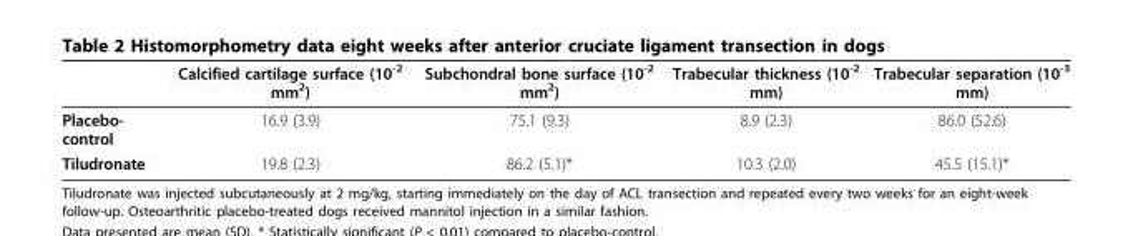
<table><thead><tr><td></td><td>Calcified cartilage surface (10<sup>-2</sup> mm<sup>2</sup>)</td><td>Subchondral bone surface (10<sup>-2</sup> mm<sup>2</sup>)</td><td>Trabecular thickness (10<sup>-2</sup> mm)</td><td>Trabecular separation (10<sup>-3</sup> mm)</td></tr></thead><tbody><tr><td>Placebo- control</td><td>16.9 (3.9)</td><td>75.1 (9.3)</td><td>8.9 (2.3)</td><td>86.0 (52.6)</td></tr><tr><td>Tiludronate</td><td>19.8 (2.3)</td><td>86.2 (5.1)*</td><td>10.3 (2.0)</td><td>45.5 (15.1)*</td></tr></tbody></table>